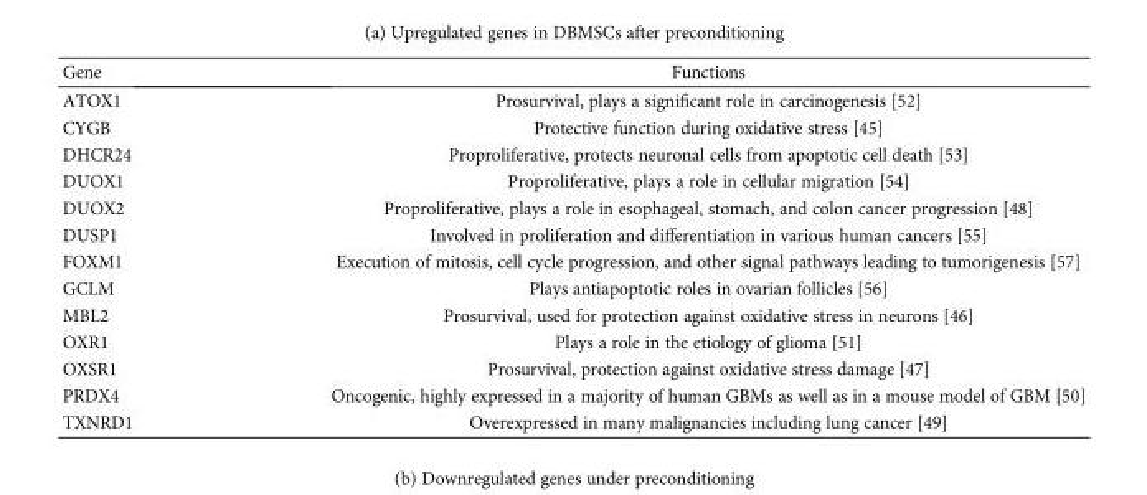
<table><thead><tr><td>Gene</td><td>Functions</td></tr></thead><tbody><tr><td>ATOX1</td><td>Prosurvival, plays a significant role in carcinogenesis [52]</td></tr><tr><td>CYGB</td><td>Protective function during oxidative stress [45]</td></tr><tr><td>DHCR24</td><td>Proproliferative, protects neuronal cells from apoptotic cell death [53]</td></tr><tr><td>DUOX1</td><td>Proproliferative, plays a role in cellular migration [54]</td></tr><tr><td>DUOX2</td><td>Proproliferative, plays a role in esophageal, stomach, and colon cancer progression [48]</td></tr><tr><td>DUSP1</td><td>Involved in proliferation and differentiation in various human cancers [55]</td></tr><tr><td>FOXM1</td><td>Execution of mitosis, cell cycle progression, and other signal pathways leading to tumorigenesis [57]</td></tr><tr><td>GCLM</td><td>Plays antiapoptotic roles in ovarian follicles [56]</td></tr><tr><td>MBL2</td><td>Prosurvival, used for protection against oxidative stress in neurons [46]</td></tr><tr><td>OXR1</td><td>Plays a role in the etiology of glioma [51]</td></tr><tr><td>OXSR1</td><td>Prosurvival, protection against oxidative stress damage [47]</td></tr><tr><td>PRDX4</td><td>Oncogenic, highly expressed in a majority of human GBMs as well as in a mouse model of GBM [50]</td></tr><tr><td>TXNRD1</td><td>Overexpressed in many malignancies including lung cancer [49]</td></tr></tbody></table>